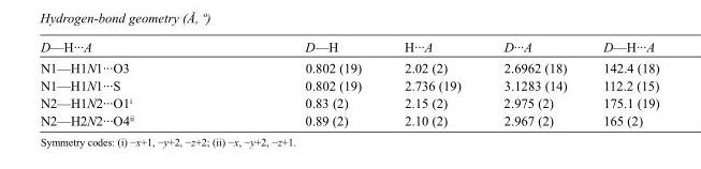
<table><tbody><tr><td>D—H···A</td><td>D—H</td><td>H···A</td><td>D···A</td><td>D—H···A</td></tr><tr><td>N1—H1N1···O3</td><td>0.802 (19)</td><td>2.02 (2)</td><td>2.6962 (18)</td><td>142.4 (18)</td></tr><tr><td>N1—H1N1···S</td><td>0.802 (19)</td><td>2.736 (19)</td><td>3.1283 (14)</td><td>112.2 (15)</td></tr><tr><td>N2—H1N2···O1<sup>i</sup></td><td>0.83 (2)</td><td>2.15 (2)</td><td>2.975 (2)</td><td>175.1 (19)</td></tr><tr><td>N2—H2N2···O4<sup>ii</sup></td><td>0.89 (2)</td><td>2.10 (2)</td><td>2.967 (2)</td><td>165 (2)</td></tr></tbody></table>